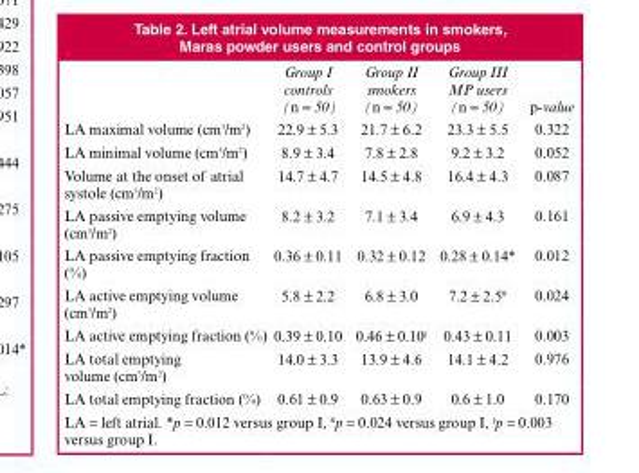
<table><thead><tr><td></td><td>Group I controls (n = 50)</td><td>Group II smokers (n = 50)</td><td>Group III MP users (n = 50)</td><td>p-value</td></tr></thead><tbody><tr><td>LA maximal volume (cm<sup>3</sup>/m<sup>2</sup>)</td><td>22.9 ± 5.3</td><td>21.7 ± 6.2</td><td>23.3 ± 5.5</td><td>0.322</td></tr><tr><td>LA minimal volume (cm<sup>3</sup>/m<sup>2</sup>)</td><td>8.9 ± 3.4</td><td>7.8 ± 2.8</td><td>9.2 ± 3.2</td><td>0.052</td></tr><tr><td>Volume at the onset of atrial systole (cm<sup>3</sup>/m<sup>2</sup>)</td><td>14.7 ± 4.7</td><td>14.5 ± 4.8</td><td>16.4 ± 4.3</td><td>0.087</td></tr><tr><td>LA passive emptying volume (cm<sup>3</sup>/m<sup>2</sup>)</td><td>8.2 ± 3.2</td><td>7.1 ± 3.4</td><td>6.9 ± 4.3</td><td>0.161</td></tr><tr><td>LA passive emptying fraction (%)</td><td>0.36 ± 0.11</td><td>0.32 ± 0.12</td><td>0.28 ± 0.14*</td><td>0.012</td></tr><tr><td>LA active emptying volume (cm<sup>3</sup>/m<sup>2</sup>)</td><td>5.8 ± 2.2</td><td>6.8 ± 3.0</td><td>7.2 ± 2.5#</td><td>0.024</td></tr><tr><td>LA active emptying fraction (%)</td><td>0.39 ± 0.10</td><td>0.46 ± 0.10§</td><td>0.43 ± 0.11</td><td>0.003</td></tr><tr><td>LA total emptying volume (cm<sup>3</sup>/m<sup>2</sup>)</td><td>14.0 ± 3.3</td><td>13.9 ± 4.6</td><td>14.1 ± 4.2</td><td>0.976</td></tr><tr><td>LA total emptying fraction (%)</td><td>0.61 ± 0.9</td><td>0.63 ± 0.9</td><td>0.6 ± 1.0</td><td>0.170</td></tr></tbody></table>